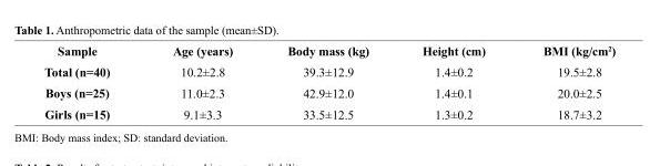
<table><thead><tr><td>Sample</td><td>Age (years)</td><td>Body mass (kg)</td><td>Height (cm)</td><td>BMI (kg/cm<sup>2</sup>)</td></tr></thead><tbody><tr><td>Total (n=40)</td><td>10.2±2.8</td><td>39.3±12.9</td><td>1.4±0.2</td><td>19.5±2.8</td></tr><tr><td>Boys (n=25)</td><td>11.0±2.3</td><td>42.9±12.0</td><td>1.4±0.1</td><td>20.0±2.5</td></tr><tr><td>Girls (n=15)</td><td>9.1±3.3</td><td>33.5±12.5</td><td>1.3±0.2</td><td>18.7±3.2</td></tr></tbody></table>